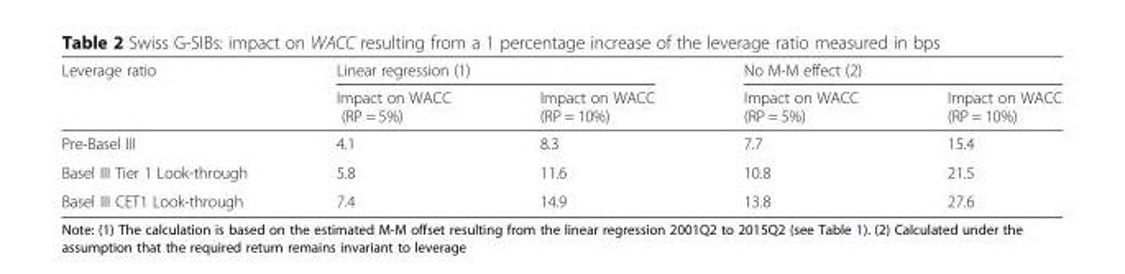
<table><thead><tr><td rowspan="2">Leverage ratio</td><td colspan="2">Linear regression (1)</td><td colspan="2">No M-M effect (2)</td></tr><tr><td>Impact on WACC (RP = 5%)</td><td>Impact on WACC (RP = 10%)</td><td>Impact on WACC (RP = 5%)</td><td>Impact on WACC (RP = 10%)</td></tr></thead><tbody><tr><td>Pre-Basel III</td><td>4.1</td><td>8.3</td><td>7.7</td><td>15.4</td></tr><tr><td>Basel III Tier 1 Look-through</td><td>5.8</td><td>11.6</td><td>10.8</td><td>21.5</td></tr><tr><td>Basel III CET1 Look-through</td><td>7.4</td><td>14.9</td><td>13.8</td><td>27.6</td></tr></tbody></table>